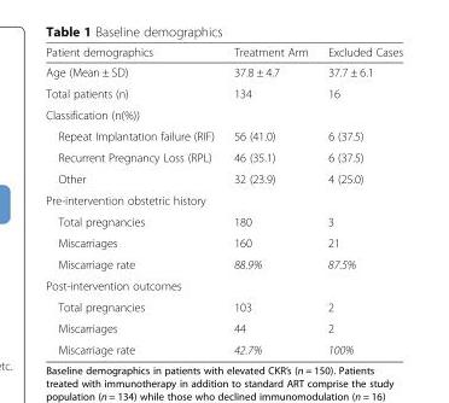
<table><thead><tr><td>Patient demographics</td><td>Treatment Arm</td><td>Excluded Cases</td></tr></thead><tbody><tr><td>Age (Mean ± SD)</td><td>37.8 ± 4.7</td><td>37.7 ± 6.1</td></tr><tr><td>Total patients (n)</td><td>134</td><td>16</td></tr><tr><td colspan="3">Classification (n(%))</td></tr><tr><td>Repeat Implantation failure (RIF)</td><td>56 (41.0)</td><td>6 (37.5)</td></tr><tr><td>Recurrent Pregnancy Loss (RPL)</td><td>46 (35.1)</td><td>6 (37.5)</td></tr><tr><td>Other</td><td>32 (23.9)</td><td>4 (25.0)</td></tr><tr><td colspan="3">Pre-intervention obstetric history</td></tr><tr><td>Total pregnancies</td><td>180</td><td>3</td></tr><tr><td>Miscarriages</td><td>160</td><td>21</td></tr><tr><td>Miscarriage rate</td><td>88.9%</td><td>87.5%</td></tr><tr><td colspan="3">Post-intervention outcomes</td></tr><tr><td>Total pregnancies</td><td>103</td><td>2</td></tr><tr><td>Miscarriages</td><td>44</td><td>2</td></tr><tr><td>Miscarriage rate</td><td>42.7%</td><td>100%</td></tr></tbody></table>